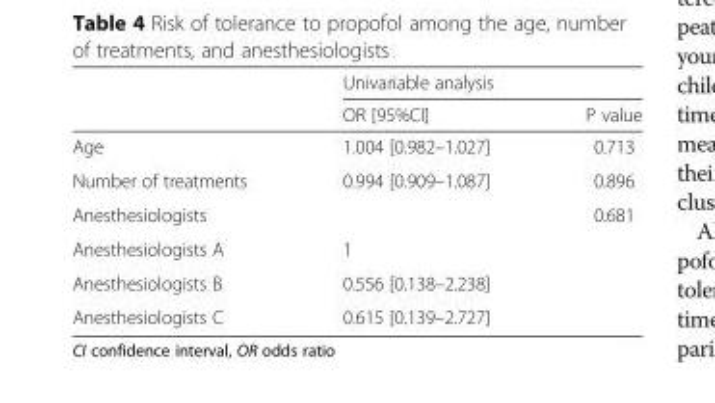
<table><thead><tr><td rowspan="2"></td><td colspan="2">Univariable analysis</td></tr><tr><td>OR [95%CI]</td><td>P value</td></tr></thead><tbody><tr><td>Age</td><td>1.004 [0.982–1.027]</td><td>0.713</td></tr><tr><td>Number of treatments</td><td>0.994 [0.909–1.087]</td><td>0.896</td></tr><tr><td>Anesthesiologists</td><td></td><td>0.681</td></tr><tr><td>Anesthesiologists A</td><td>1</td><td></td></tr><tr><td>Anesthesiologists B</td><td>0.556 [0.138–2.238]</td><td></td></tr><tr><td>Anesthesiologists C</td><td>0.615 [0.139–2.727]</td><td></td></tr></tbody></table>